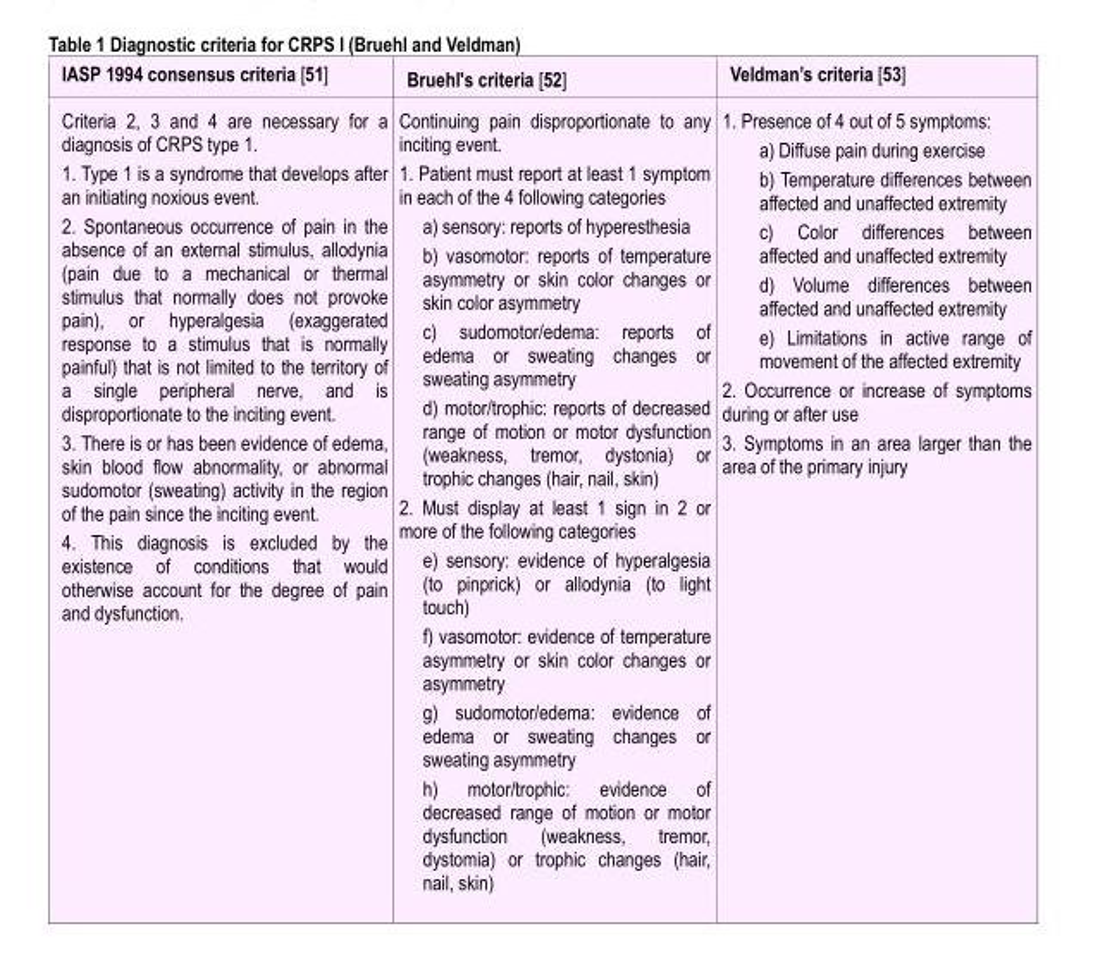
<table><thead><tr><td rowspan="2">IASP 1994 consensus criteria [51] Criteria 2, 3 and 4 are necessary for a diagnosis of CRPS type 1. 1. Type 1 is a syndrome that develops after an initiating noxious event. 2. Spontaneous occurrence of pain in the absence of an external stimulus, allodynia (pain due to a mechanical or thermal stimulus that normally does not provoke pain), or hyperalgesia (exaggerated response to a stimulus that is normally painful) that is not limited to the territory of a single peripheral nerve, and is disproportionate to the inciting event. 3. There is or has been evidence of edema, skin blood flow abnormality, or abnormal sudomotor (sweating) activity in the region of the pain since the inciting event. 4. This diagnosis is excluded by the existence of conditions that would otherwise account for the degree of pain and dysfunction.</td><td rowspan="2">Bruehl&#x27;s criteria [52] Continuing pain disproportionate to any inciting event. 1. Patient must report at least 1 symptom in each of the 4 following categories a) sensory: reports of hyperesthesia b) vasomotor: reports of temperature asymmetry or skin color changes or skin color asymmetry c) sudomotor/edema: reports of edema or sweating changes or sweating asymmetry d) motor/trophic: reports of decreased range of motion or motor dysfunction (weakness, tremor, dystonia) or trophic changes (hair, nail, skin) 2. Must display at least 1 sign in 2 or more of the following categories e) sensory: evidence of hyperalgesia (to pinprick) or allodynia (to light touch) f) vasomotor: evidence of temperature asymmetry or skin color changes or asymmetry g) sudomotor/edema: evidence of edema or sweating changes or sweating asymmetry h) motor/trophic: evidence of decreased range of motion or motor dysfunction (weakness, tremor, dystomia) or trophic changes (hair, nail, skin)</td><td rowspan="2">Veldman’s criteria [53] 1. Presence of 4 out of 5 symptoms: a) Diffuse pain during exercise b) Temperature differences between affected and unaffected extremity c) Color differences between affected and unaffected extremity d) Volume differences between affected and unaffected extremity e) Limitations in active range of movement of the affected extremity 2. Occurrence or increase of symptoms during or after use 3. Symptoms in an area larger than the area of the primary injury</td></tr><tr></tr></thead><tbody></tbody></table>